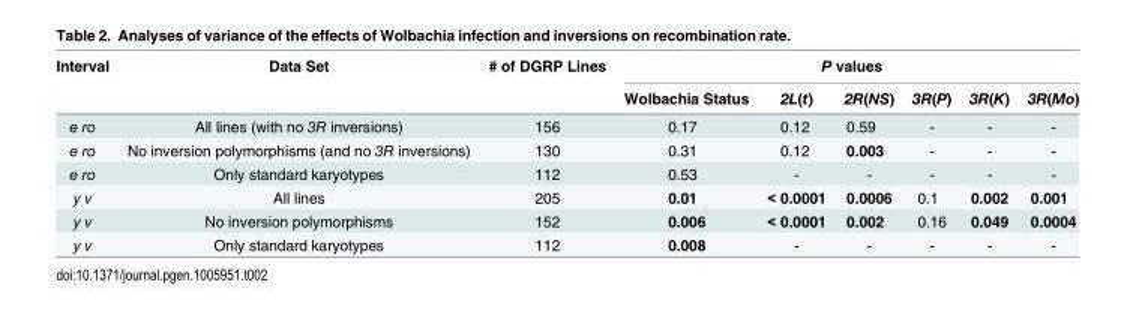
<table><thead><tr><td rowspan="2">Interval</td><td rowspan="2">Data Set</td><td rowspan="2"># of DGRP Lines</td><td colspan="6">P values</td></tr><tr><td>Wolbachia Status</td><td>2L(t)</td><td>2R(NS)</td><td>3R(P)</td><td>3R(K)</td><td>3R(Mo)</td></tr></thead><tbody><tr><td>e ro</td><td>All lines (with no 3R inversions)</td><td>156</td><td>0.17</td><td>0.12</td><td>0.59</td><td>-</td><td>-</td><td>-</td></tr><tr><td>e ro</td><td>No inversion polymorphisms (and no 3R inversions)</td><td>130</td><td>0.31</td><td>0.12</td><td>0.003</td><td>-</td><td>-</td><td>-</td></tr><tr><td>e ro</td><td>Only standard karyotypes</td><td>112</td><td>0.53</td><td>-</td><td>-</td><td>-</td><td>-</td><td>-</td></tr><tr><td>y v</td><td>All lines</td><td>205</td><td>0.01</td><td>&lt; 0.0001</td><td>0.0006</td><td>0.1</td><td>0.002</td><td>0.001</td></tr><tr><td>y v</td><td>No inversion polymorphisms</td><td>152</td><td>0.006</td><td>&lt; 0.0001</td><td>0.002</td><td>0.16</td><td>0.049</td><td>0.0004</td></tr><tr><td>y v</td><td>Only standard karyotypes</td><td>112</td><td>0.008</td><td>-</td><td>-</td><td>-</td><td>-</td><td>-</td></tr></tbody></table>